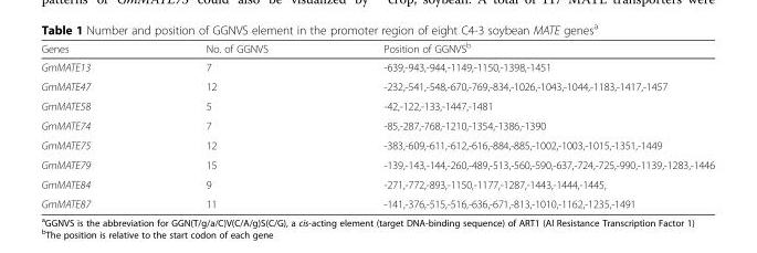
<table><thead><tr><td>Genes</td><td>No. of GGNVS</td><td>Position of GGNVS<sup>b</sup></td></tr></thead><tbody><tr><td>GmMATE13</td><td>7</td><td>-639,-943,-944,-1149,-1150,-1398,-1451</td></tr><tr><td>GmMATE47</td><td>12</td><td>-232,-541,-548,-670,-769,-834,-1026,-1043,-1044,-1183,-1417,-1457</td></tr><tr><td>GmMATE58</td><td>5</td><td>-42,-122,-133,-1447,-1481</td></tr><tr><td>GmMATE74</td><td>7</td><td>-85,-287,-768,-1210,-1354,-1386,-1390</td></tr><tr><td>GmMATE75</td><td>12</td><td>-383,-609,-611,-612,-616,-884,-885,-1002,-1003,-1015,-1351,-1449</td></tr><tr><td>GmMATE79</td><td>15</td><td>-139,-143,-144,-260,-489,-513,-560,-590,-637,-724,-725,-990,-1139,-1283,-1446</td></tr><tr><td>GmMATE84</td><td>9</td><td>-271,-772,-893,-1150,-1177,-1287,-1443,-1444,-1445,</td></tr><tr><td>GmMATE87</td><td>11</td><td>-141,-376,-515,-516,-636,-671,-813,-1010,-1162,-1235,-1491</td></tr></tbody></table>